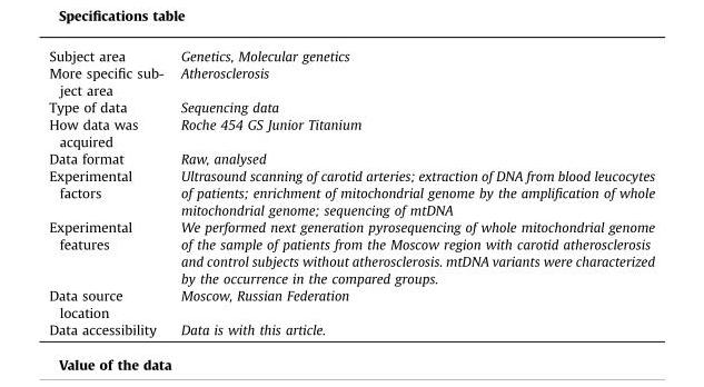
<table><tbody><tr><td>Subject area</td><td>Genetics, Molecular genetics</td></tr><tr><td>More specific sub- ject area</td><td>Atherosclerosis</td></tr><tr><td>Type of data</td><td>Sequencing data</td></tr><tr><td>How data was acquired</td><td>Roche 454 GS Junior Titanium</td></tr><tr><td>Data format</td><td>Raw, analysed</td></tr><tr><td>Experimental factors</td><td>Ultrasound scanning of carotid arteries; extraction of DNA from blood leucocytes of patients; enrichment of mitochondrial genome by the amplification of whole mitochondrial genome; sequencing of mtDNA</td></tr><tr><td>Experimental features</td><td>We performed next generation pyrosequencing of whole mitochondrial genome of the sample of patients from the Moscow region with carotid atherosclerosis and control subjects without atherosclerosis. mtDNA variants were characterized by the occurrence in the compared groups.</td></tr><tr><td>Data source location</td><td>Moscow, Russian Federation</td></tr><tr><td>Data accessibility</td><td>Data is with this article.</td></tr></tbody></table>